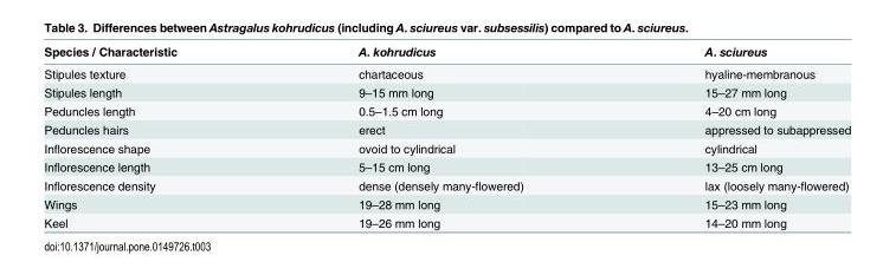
<table><thead><tr><td>Species / Characteristic</td><td>A. kohrudicus</td><td>A. sciureus</td></tr></thead><tbody><tr><td>Stipules texture</td><td>chartaceous</td><td>hyaline-membranous</td></tr><tr><td>Stipules length</td><td>9–15 mm long</td><td>15–27 mm long</td></tr><tr><td>Peduncles length</td><td>0.5–1.5 cm long</td><td>4–20 cm long</td></tr><tr><td>Peduncles hairs</td><td>erect</td><td>appressed to subappressed</td></tr><tr><td>Inflorescence shape</td><td>ovoid to cylindrical</td><td>cylindrical</td></tr><tr><td>Inflorescence length</td><td>5–15 cm long</td><td>13–25 cm long</td></tr><tr><td>Inflorescence density</td><td>dense (densely many-flowered)</td><td>lax (loosely many-flowered)</td></tr><tr><td>Wings</td><td>19–28 mm long</td><td>15–23 mm long</td></tr><tr><td>Keel</td><td>19–26 mm long</td><td>14–20 mm long</td></tr></tbody></table>